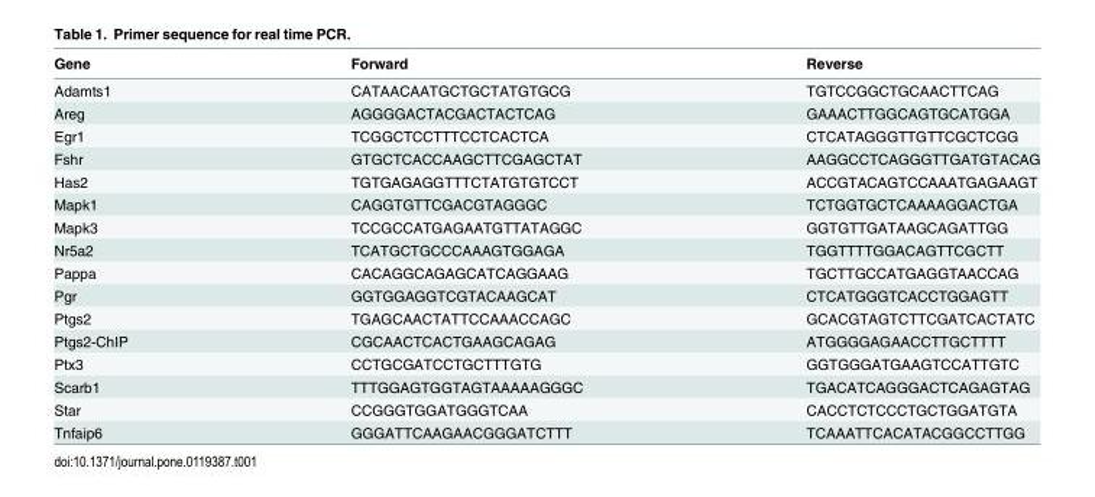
<table><thead><tr><td>Gene</td><td>Forward</td><td>Reverse</td></tr></thead><tbody><tr><td>Adamts1</td><td>CATAACAATGCTGCTATGTGCG</td><td>TGTCCGGCTGCAACTTCAG</td></tr><tr><td>Areg</td><td>AGGGGACTACGACTACTCAG</td><td>GAAACTTGGCAGTGCATGGA</td></tr><tr><td>Egr1</td><td>TCGGCTCCTTTCCTCACTCA</td><td>CTCATAGGGTTGTTCGCTCGG</td></tr><tr><td>Fshr</td><td>GTGCTCACCAAGCTTCGAGCTAT</td><td>AAGGCCTCAGGGTTGATGTACAG</td></tr><tr><td>Has2</td><td>TGTGAGAGGTTTCTATGTGTCCT</td><td>ACCGTACAGTCCAAATGAGAAGT</td></tr><tr><td>Mapk1</td><td>CAGGTGTTCGACGTAGGGC</td><td>TCTGGTGCTCAAAAGGACTGA</td></tr><tr><td>Mapk3</td><td>TCCGCCATGAGAATGTTATAGGC</td><td>GGTGTTGATAAGCAGATTGG</td></tr><tr><td>Nr5a2</td><td>TCATGCTGCCCAAAGTGGAGA</td><td>TGGTTTTGGACAGTTCGCTT</td></tr><tr><td>Pappa</td><td>CACAGGCAGAGCATCAGGAAG</td><td>TGCTTGCCATGAGGTAACCAG</td></tr><tr><td>Pgr</td><td>GGTGGAGGTCGTACAAGCAT</td><td>CTCATGGGTCACCTGGAGTT</td></tr><tr><td>Ptgs2</td><td>TGAGCAACTATTCCAAACCAGC</td><td>GCACGTAGTCTTCGATCACTATC</td></tr><tr><td>Ptgs2-ChIP</td><td>CGCAACTCACTGAAGCAGAG</td><td>ATGGGGAGAACCTTGCTTTT</td></tr><tr><td>Ptx3</td><td>CCTGCGATCCTGCTTTGTG</td><td>GGTGGGATGAAGTCCATTGTC</td></tr><tr><td>Scarb1</td><td>TTTGGAGTGGTAGTAAAAAGGGC</td><td>TGACATCAGGGACTCAGAGTAG</td></tr><tr><td>Star</td><td>CCGGGTGGATGGGTCAA</td><td>CACCTCTCCCTGCTGGATGTA</td></tr><tr><td>Tnfaip6</td><td>GGGATTCAAGAACGGGATCTTT</td><td>TCAAATTCACATACGGCCTTGG</td></tr></tbody></table>